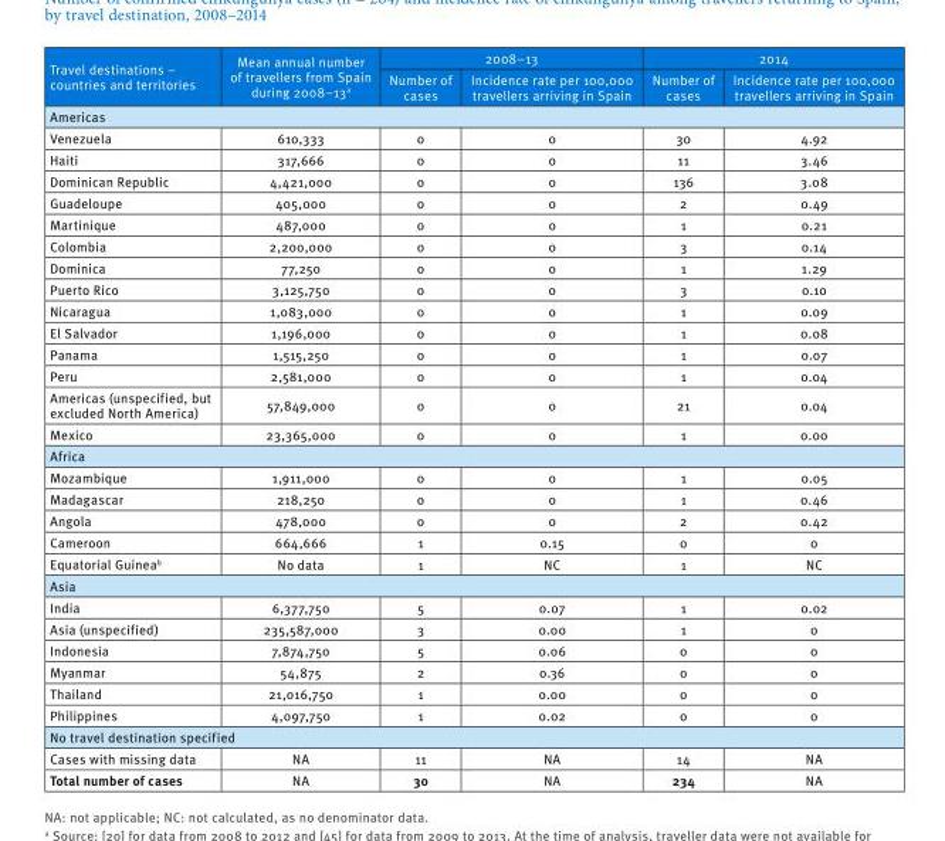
<table><thead><tr><td rowspan="2">Travel destinations – countries and territories</td><td rowspan="2">Mean annual number of travellers from Spain during 2008–13<sup>a</sup></td><td colspan="2">2008–13</td><td colspan="2">2014</td></tr><tr><td>Number of cases</td><td>Incidence rate per 100,000 travellers arriving in Spain</td><td>Number of cases</td><td>Incidence rate per 100,000 travellers arriving in Spain</td></tr></thead><tbody><tr><td colspan="6">Americas</td></tr><tr><td>Venezuela</td><td>610,333</td><td>0</td><td>0</td><td>30</td><td>4.92</td></tr><tr><td>Haiti</td><td>317,666</td><td>0</td><td>0</td><td>11</td><td>3.46</td></tr><tr><td>Dominican Republic</td><td>4,421,000</td><td>0</td><td>0</td><td>136</td><td>3.08</td></tr><tr><td>Guadeloupe</td><td>405,000</td><td>0</td><td>0</td><td>2</td><td>0.49</td></tr><tr><td>Martinique</td><td>487,000</td><td>0</td><td>0</td><td>1</td><td>0.21</td></tr><tr><td>Colombia</td><td>2,200,000</td><td>0</td><td>0</td><td>3</td><td>0.14</td></tr><tr><td>Dominica</td><td>77,250</td><td>0</td><td>0</td><td>1</td><td>1.29</td></tr><tr><td>Puerto Rico</td><td>3,125,750</td><td>0</td><td>0</td><td>3</td><td>0.10</td></tr><tr><td>Nicaragua</td><td>1,083,000</td><td>0</td><td>0</td><td>1</td><td>0.09</td></tr><tr><td>El Salvador</td><td>1,196,000</td><td>0</td><td>0</td><td>1</td><td>0.08</td></tr><tr><td>Panama</td><td>1,515,250</td><td>0</td><td>0</td><td>1</td><td>0.07</td></tr><tr><td>Peru</td><td>2,581,000</td><td>0</td><td>0</td><td>1</td><td>0.04</td></tr><tr><td>Americas (unspecified, but excluded North America)</td><td>57,849,000</td><td>0</td><td>0</td><td>21</td><td>0.04</td></tr><tr><td>Mexico</td><td>23,365,000</td><td>0</td><td>0</td><td>1</td><td>0.00</td></tr><tr><td colspan="6">Africa</td></tr><tr><td>Mozambique</td><td>1,911,000</td><td>0</td><td>0</td><td>1</td><td>0.05</td></tr><tr><td>Madagascar</td><td>218,250</td><td>0</td><td>0</td><td>1</td><td>0.46</td></tr><tr><td>Angola</td><td>478,000</td><td>0</td><td>0</td><td>2</td><td>0.42</td></tr><tr><td>Cameroon</td><td>664,666</td><td>1</td><td>0.15</td><td>0</td><td>0</td></tr><tr><td>Equatorial Guinea<sup>b</sup></td><td>No data</td><td>1</td><td>NC</td><td>1</td><td>NC</td></tr><tr><td colspan="6">Asia</td></tr><tr><td>India</td><td>6,377,750</td><td>5</td><td>0.07</td><td>1</td><td>0.02</td></tr><tr><td>Asia (unspecified)</td><td>235,587,000</td><td>3</td><td>0.00</td><td>1</td><td>0</td></tr><tr><td>Indonesia</td><td>7,874,750</td><td>5</td><td>0.06</td><td>0</td><td>0</td></tr><tr><td>Myanmar</td><td>54,875</td><td>2</td><td>0.36</td><td>0</td><td>0</td></tr><tr><td>Thailand</td><td>21,016,750</td><td>1</td><td>0.00</td><td>0</td><td>0</td></tr><tr><td>Philippines</td><td>4,097,750</td><td>1</td><td>0.02</td><td>0</td><td>0</td></tr><tr><td colspan="6">No travel destination specified</td></tr><tr><td>Cases with missing data</td><td>NA</td><td>11</td><td>NA</td><td>14</td><td>NA</td></tr><tr><td>Total number of cases</td><td>NA</td><td>30</td><td>NA</td><td>234</td><td>NA</td></tr></tbody></table>